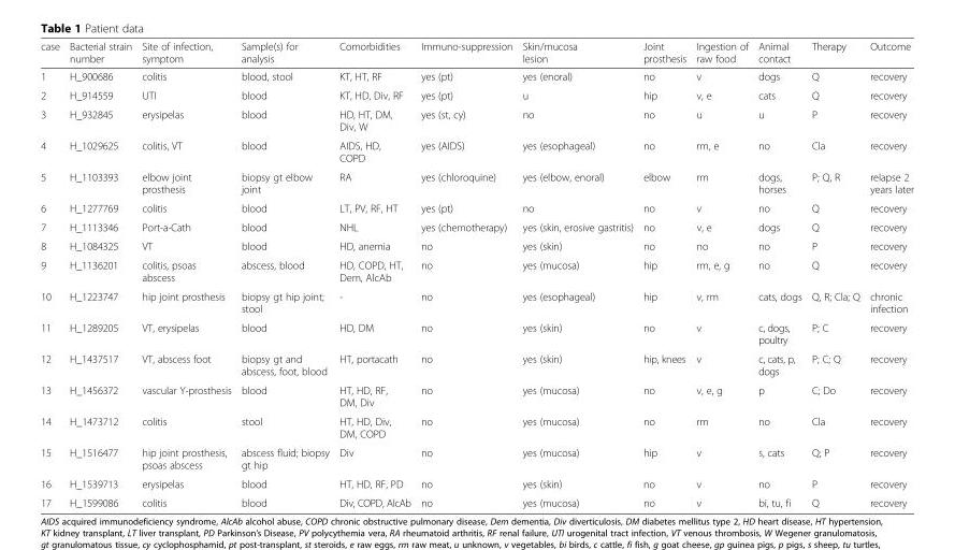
<table><thead><tr><td>case</td><td>Bacterial strain number</td><td>Site of infection, symptom</td><td>Sample(s) for analysis</td><td>Comorbidities</td><td>Immuno-suppression</td><td>Skin/mucosa lesion</td><td>Joint prosthesis</td><td>Ingestion of raw food</td><td>Animal contact</td><td>Therapy</td><td>Outcome</td></tr></thead><tbody><tr><td>1</td><td>H_900686</td><td>colitis</td><td>blood, stool</td><td>KT, HT, RF</td><td>yes (pt)</td><td>yes (enoral)</td><td>no</td><td>v</td><td>dogs</td><td>Q</td><td>recovery</td></tr><tr><td>2</td><td>H_914559</td><td>UTI</td><td>blood</td><td>KT, HD, Div, RF</td><td>yes (pt)</td><td>u</td><td>hip</td><td>v, e</td><td>cats</td><td>Q</td><td>recovery</td></tr><tr><td>3</td><td>H_932845</td><td>erysipelas</td><td>blood</td><td>HD, HT, DM, Div, W</td><td>yes (st, cy)</td><td>no</td><td>no</td><td>u</td><td>u</td><td>P</td><td>recovery</td></tr><tr><td>4</td><td>H_1029625</td><td>colitis, VT</td><td>blood</td><td>AIDS, HD, COPD</td><td>yes (AIDS)</td><td>yes (esophageal)</td><td>no</td><td>rm, e</td><td>no</td><td>Cla</td><td>recovery</td></tr><tr><td>5</td><td>H_1103393</td><td>elbow joint prosthesis</td><td>biopsy gt elbow joint</td><td>RA</td><td>yes (chloroquine)</td><td>yes (elbow, enoral)</td><td>elbow</td><td>rm</td><td>dogs, horses</td><td>P; Q, R</td><td>relapse 2 years later</td></tr><tr><td>6</td><td>H_1277769</td><td>colitis</td><td>blood</td><td>LT, PV, RF, HT</td><td>yes (pt)</td><td>no</td><td>no</td><td>v</td><td>no</td><td>Q</td><td>recovery</td></tr><tr><td>7</td><td>H_1113346</td><td>Port-a-Cath</td><td>blood</td><td>NHL</td><td>yes (chemotherapy)</td><td>yes (skin, erosive gastritis)</td><td>no</td><td>v, e</td><td>dogs</td><td>Q</td><td>recovery</td></tr><tr><td>8</td><td>H_1084325</td><td>VT</td><td>blood</td><td>HD, anemia</td><td>no</td><td>yes (skin)</td><td>no</td><td>no</td><td>no</td><td>P</td><td>recovery</td></tr><tr><td>9</td><td>H_1136201</td><td>colitis, psoas abscess</td><td>abscess, blood</td><td>HD, COPD, HT, Dem, AlcAb</td><td>no</td><td>yes (mucosa)</td><td>hip</td><td>rm, e, g</td><td>no</td><td>Q</td><td>recovery</td></tr><tr><td>10</td><td>H_1223747</td><td>hip joint prosthesis</td><td>biopsy gt hip joint; stool</td><td>-</td><td>no</td><td>yes (esophageal)</td><td>hip</td><td>v, rm</td><td>cats, dogs</td><td>Q, R; Cla; Q</td><td>chronic infection</td></tr><tr><td>11</td><td>H_1289205</td><td>VT, erysipelas</td><td>blood</td><td>HD, DM</td><td>no</td><td>yes (skin)</td><td>no</td><td>v</td><td>c, dogs, poultry</td><td>P; C</td><td>recovery</td></tr><tr><td>12</td><td>H_1437517</td><td>VT, abscess foot</td><td>biopsy gt and abscess, foot, blood</td><td>HT, portacath</td><td>no</td><td>yes (skin)</td><td>hip, knees</td><td>v</td><td>c, cats, p, dogs</td><td>P; C; Q</td><td>recovery</td></tr><tr><td>13</td><td>H_1456372</td><td>vascular Y-prosthesis</td><td>blood</td><td>HT, HD, RF, DM, Div</td><td>no</td><td>yes (mucosa)</td><td>no</td><td>v, e, g</td><td>p</td><td>C; Do</td><td>recovery</td></tr><tr><td>14</td><td>H_1473712</td><td>colitis</td><td>stool</td><td>HT, HD, Div, DM, COPD</td><td>no</td><td>yes (mucosa)</td><td>no</td><td>rm</td><td>no</td><td>Cla</td><td>recovery</td></tr><tr><td>15</td><td>H_1516477</td><td>hip joint prosthesis, psoas abscess</td><td>abscess fluid; biopsy gt hip</td><td>Div</td><td>no</td><td>yes (mucosa)</td><td>hip</td><td>v</td><td>s, cats</td><td>Q; P</td><td>recovery</td></tr><tr><td>16</td><td>H_1539713</td><td>erysipelas</td><td>blood</td><td>HT, HD, RF, PD</td><td>no</td><td>yes (skin)</td><td>no</td><td>v</td><td>no</td><td>P</td><td>recovery</td></tr><tr><td>17</td><td>H_1599086</td><td>colitis</td><td>blood</td><td>Div, COPD, AlcAb</td><td>no</td><td>yes (mucosa)</td><td>no</td><td>v</td><td>bi, tu, fi</td><td>Q</td><td>recovery</td></tr></tbody></table>